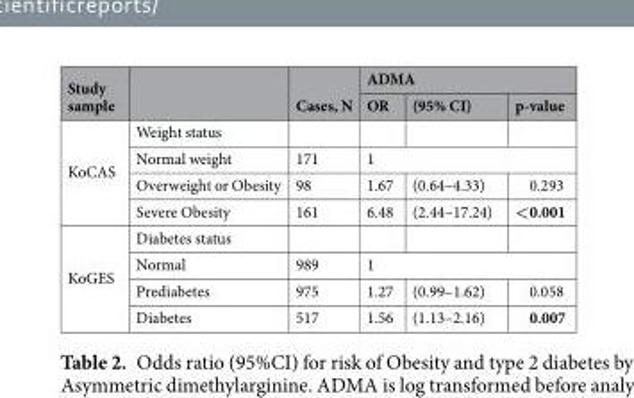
<table><thead><tr><td rowspan="2">Study sample</td><td rowspan="2"></td><td rowspan="2">Cases, N</td><td colspan="3">ADMA</td></tr><tr><td>OR</td><td>(95% CI)</td><td>p-value</td></tr></thead><tbody><tr><td rowspan="4">KoCAS</td><td>Weight status</td><td></td><td></td><td></td><td></td></tr><tr><td>Normal weight</td><td>171</td><td colspan="3">1</td></tr><tr><td>Overweight or Obesity</td><td>98</td><td>1.67</td><td>(0.64–4.33)</td><td>0.293</td></tr><tr><td>Severe Obesity</td><td>161</td><td>6.48</td><td>(2.44–17.24)</td><td>&lt;0.001</td></tr><tr><td rowspan="4">KoGES</td><td>Diabetes status</td><td></td><td></td><td></td><td></td></tr><tr><td>Normal</td><td>989</td><td colspan="3">1</td></tr><tr><td>Prediabetes</td><td>975</td><td>1.27</td><td>(0.99–1.62)</td><td>0.058</td></tr><tr><td>Diabetes</td><td>517</td><td>1.56</td><td>(1.13–2.16)</td><td>0.007</td></tr></tbody></table>